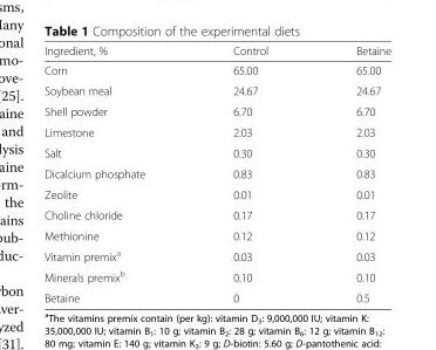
<table><thead><tr><td>Ingredient, %</td><td>Control</td><td>Betaine</td></tr></thead><tbody><tr><td>Corn</td><td>65.00</td><td>65.00</td></tr><tr><td>Soybean meal</td><td>24.67</td><td>24.67</td></tr><tr><td>Shell powder</td><td>6.70</td><td>6.70</td></tr><tr><td>Limestone</td><td>2.03</td><td>2.03</td></tr><tr><td>Salt</td><td>0.30</td><td>0.30</td></tr><tr><td>Dicalcium phosphate</td><td>0.83</td><td>0.83</td></tr><tr><td>Zeolite</td><td>0.01</td><td>0.01</td></tr><tr><td>Choline chloride</td><td>0.17</td><td>0.17</td></tr><tr><td>Methionine</td><td>0.12</td><td>0.12</td></tr><tr><td>Vitamin premix<sup>a</sup></td><td>0.03</td><td>0.03</td></tr><tr><td>Minerals premix<sup>b</sup></td><td>0.10</td><td>0.10</td></tr><tr><td>Betaine</td><td>0</td><td>0.5</td></tr></tbody></table>